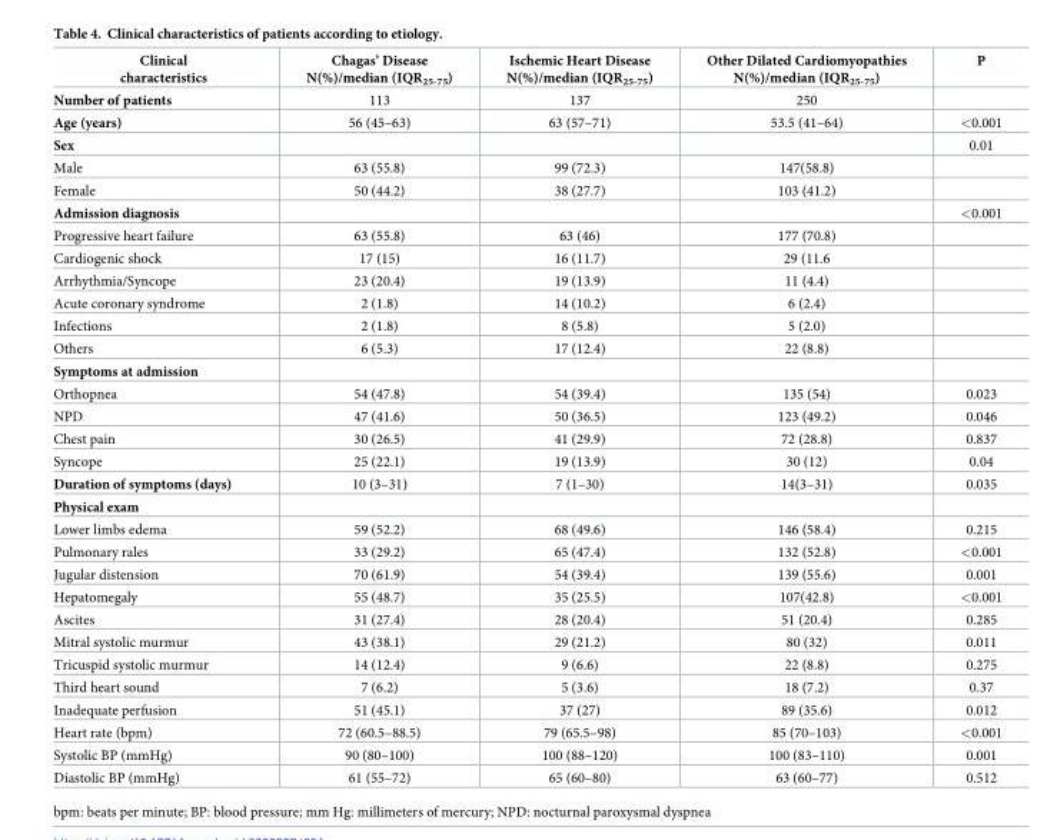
<table><thead><tr><td>Clinical characteristics</td><td>Chagas’ Disease N(%)/median (IQR<sub>25-75</sub>)</td><td>Ischemic Heart Disease N(%)/median (IQR<sub>25-75</sub>)</td><td>Other Dilated Cardiomyopathies N(%)/median (IQR<sub>25-75</sub>)</td><td>P</td></tr></thead><tbody><tr><td>Number of patients</td><td>113</td><td>137</td><td>250</td><td></td></tr><tr><td>Age (years)</td><td>56 (45–63)</td><td>63 (57–71)</td><td>53.5 (41–64)</td><td>&lt;0.001</td></tr><tr><td>Sex</td><td></td><td></td><td></td><td>0.01</td></tr><tr><td>Male</td><td>63 (55.8)</td><td>99 (72.3)</td><td>147(58.8)</td><td></td></tr><tr><td>Female</td><td>50 (44.2)</td><td>38 (27.7)</td><td>103 (41.2)</td><td></td></tr><tr><td>Admission diagnosis</td><td></td><td></td><td></td><td>&lt;0.001</td></tr><tr><td>Progressive heart failure</td><td>63 (55.8)</td><td>63 (46)</td><td>177 (70.8)</td><td></td></tr><tr><td>Cardiogenic shock</td><td>17 (15)</td><td>16 (11.7)</td><td>29 (11.6</td><td></td></tr><tr><td>Arrhythmia/Syncope</td><td>23 (20.4)</td><td>19 (13.9)</td><td>11 (4.4)</td><td></td></tr><tr><td>Acute coronary syndrome</td><td>2 (1.8)</td><td>14 (10.2)</td><td>6 (2.4)</td><td></td></tr><tr><td>Infections</td><td>2 (1.8)</td><td>8 (5.8)</td><td>5 (2.0)</td><td></td></tr><tr><td>Others</td><td>6 (5.3)</td><td>17 (12.4)</td><td>22 (8.8)</td><td></td></tr><tr><td colspan="5">Symptoms at admission</td></tr><tr><td>Orthopnea</td><td>54 (47.8)</td><td>54 (39.4)</td><td>135 (54)</td><td>0.023</td></tr><tr><td>NPD</td><td>47 (41.6)</td><td>50 (36.5)</td><td>123 (49.2)</td><td>0.046</td></tr><tr><td>Chest pain</td><td>30 (26.5)</td><td>41 (29.9)</td><td>72 (28.8)</td><td>0.837</td></tr><tr><td>Syncope</td><td>25 (22.1)</td><td>19 (13.9)</td><td>30 (12)</td><td>0.04</td></tr><tr><td>Duration of symptoms (days)</td><td>10 (3–31)</td><td>7 (1–30)</td><td>14(3–31)</td><td>0.035</td></tr><tr><td colspan="5">Physical exam</td></tr><tr><td>Lower limbs edema</td><td>59 (52.2)</td><td>68 (49.6)</td><td>146 (58.4)</td><td>0.215</td></tr><tr><td>Pulmonary rales</td><td>33 (29.2)</td><td>65 (47.4)</td><td>132 (52.8)</td><td>&lt;0.001</td></tr><tr><td>Jugular distension</td><td>70 (61.9)</td><td>54 (39.4)</td><td>139 (55.6)</td><td>0.001</td></tr><tr><td>Hepatomegaly</td><td>55 (48.7)</td><td>35 (25.5)</td><td>107(42.8)</td><td>&lt;0.001</td></tr><tr><td>Ascites</td><td>31 (27.4)</td><td>28 (20.4)</td><td>51 (20.4)</td><td>0.285</td></tr><tr><td>Mitral systolic murmur</td><td>43 (38.1)</td><td>29 (21.2)</td><td>80 (32)</td><td>0.011</td></tr><tr><td>Tricuspid systolic murmur</td><td>14 (12.4)</td><td>9 (6.6)</td><td>22 (8.8)</td><td>0.275</td></tr><tr><td>Third heart sound</td><td>7 (6.2)</td><td>5 (3.6)</td><td>18 (7.2)</td><td>0.37</td></tr><tr><td>Inadequate perfusion</td><td>51 (45.1)</td><td>37 (27)</td><td>89 (35.6)</td><td>0.012</td></tr><tr><td>Heart rate (bpm)</td><td>72 (60.5–88.5)</td><td>79 (65.5–98)</td><td>85 (70–103)</td><td>&lt;0.001</td></tr><tr><td>Systolic BP (mmHg)</td><td>90 (80–100)</td><td>100 (88–120)</td><td>100 (83–110)</td><td>0.001</td></tr><tr><td>Diastolic BP (mmHg)</td><td>61 (55–72)</td><td>65 (60–80)</td><td>63 (60–77)</td><td>0.512</td></tr></tbody></table>